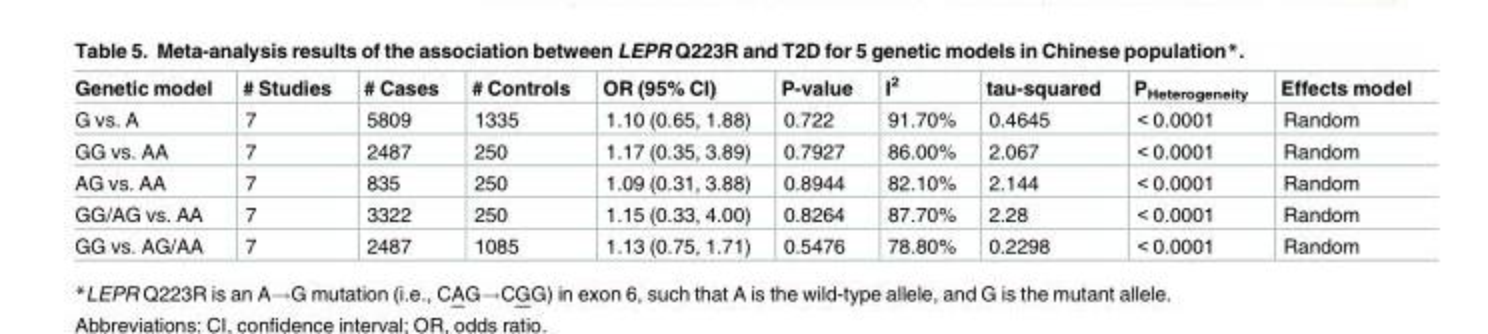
<table><thead><tr><td>Genetic model</td><td># Studies</td><td># Cases</td><td># Controls</td><td>OR (95% CI)</td><td>P-value</td><td>I<sup>2</sup></td><td>tau-squared</td><td>P<sub>Heterogeneity</sub></td><td>Effects model</td></tr></thead><tbody><tr><td>G vs. A</td><td>7</td><td>5809</td><td>1335</td><td>1.10 (0.65, 1.88)</td><td>0.722</td><td>91.70%</td><td>0.4645</td><td>&lt; 0.0001</td><td>Random</td></tr><tr><td>GG vs. AA</td><td>7</td><td>2487</td><td>250</td><td>1.17 (0.35, 3.89)</td><td>0.7927</td><td>86.00%</td><td>2.067</td><td>&lt; 0.0001</td><td>Random</td></tr><tr><td>AG vs. AA</td><td>7</td><td>835</td><td>250</td><td>1.09 (0.31, 3.88)</td><td>0.8944</td><td>82.10%</td><td>2.144</td><td>&lt; 0.0001</td><td>Random</td></tr><tr><td>GG/AG vs. AA</td><td>7</td><td>3322</td><td>250</td><td>1.15 (0.33, 4.00)</td><td>0.8264</td><td>87.70%</td><td>2.28</td><td>&lt; 0.0001</td><td>Random</td></tr><tr><td>GG vs. AG/AA</td><td>7</td><td>2487</td><td>1085</td><td>1.13 (0.75, 1.71)</td><td>0.5476</td><td>78.80%</td><td>0.2298</td><td>&lt; 0.0001</td><td>Random</td></tr></tbody></table>